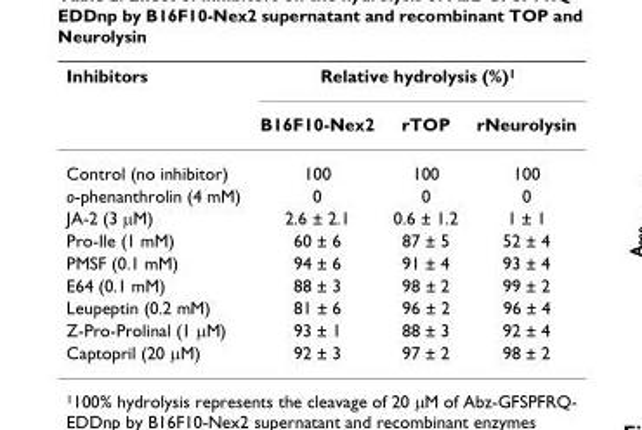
<table><thead><tr><td rowspan="2">Inhibitors</td><td colspan="3">Relative hydrolysis (%)<sup>1</sup></td></tr><tr><td>B16F10-Nex2</td><td>rTOP</td><td>rNeurolysin</td></tr></thead><tbody><tr><td>Control (no inhibitor)</td><td>100</td><td>100</td><td>100</td></tr><tr><td>o-phenanthrolin (4 mM)</td><td>0</td><td>0</td><td>0</td></tr><tr><td>JA-2 (3 μM)</td><td>2.6 ± 2.1</td><td>0.6 ± 1.2</td><td>1 ± 1</td></tr><tr><td>Pro-Ile (1 mM)</td><td>60 ± 6</td><td>87 ± 5</td><td>52 ± 4</td></tr><tr><td>PMSF (0.1 mM)</td><td>94 ± 6</td><td>91 ± 4</td><td>93 ± 4</td></tr><tr><td>E64 (0.1 mM)</td><td>88 ± 3</td><td>98 ± 2</td><td>99 ± 2</td></tr><tr><td>Leupeptin (0.2 mM)</td><td>81 ± 6</td><td>96 ± 2</td><td>96 ± 4</td></tr><tr><td>Z-Pro-Prolinal (1 μM)</td><td>93 ± 1</td><td>88 ± 3</td><td>92 ± 4</td></tr><tr><td>Captopril (20 μM)</td><td>92 ± 3</td><td>97 ± 2</td><td>98 ± 2</td></tr></tbody></table>